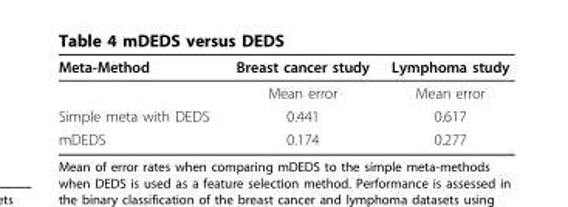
<table><thead><tr><td>Meta-Method</td><td>Breast cancer study</td><td>Lymphoma study</td></tr></thead><tbody><tr><td></td><td>Mean error</td><td>Mean error</td></tr><tr><td>Simple meta with DEDS</td><td>0.441</td><td>0.617</td></tr><tr><td>mDEDS</td><td>0.174</td><td>0.277</td></tr></tbody></table>